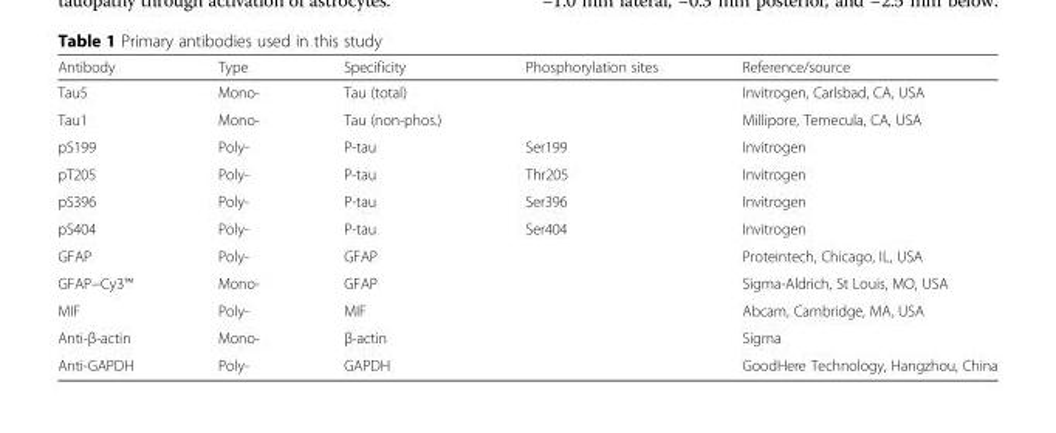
<table><thead><tr><td>Antibody</td><td>Type</td><td>Specificity</td><td>Phosphorylation sites</td><td>Reference/source</td></tr></thead><tbody><tr><td>Tau5</td><td>Mono-</td><td>Tau (total)</td><td></td><td>Invitrogen, Carlsbad, CA, USA</td></tr><tr><td>Tau1</td><td>Mono-</td><td>Tau (non-phos.)</td><td></td><td>Millipore, Temecula, CA, USA</td></tr><tr><td>pS199</td><td>Poly-</td><td>P-tau</td><td>Ser199</td><td>Invitrogen</td></tr><tr><td>pT205</td><td>Poly-</td><td>P-tau</td><td>Thr205</td><td>Invitrogen</td></tr><tr><td>pS396</td><td>Poly-</td><td>P-tau</td><td>Ser396</td><td>Invitrogen</td></tr><tr><td>pS404</td><td>Poly-</td><td>P-tau</td><td>Ser404</td><td>Invitrogen</td></tr><tr><td>GFAP</td><td>Poly-</td><td>GFAP</td><td></td><td>Proteintech, Chicago, IL, USA</td></tr><tr><td>GFAP−Cy3™</td><td>Mono-</td><td>GFAP</td><td></td><td>Sigma-Aldrich, St Louis, MO, USA</td></tr><tr><td>MIF</td><td>Poly-</td><td>MIF</td><td></td><td>Abcam, Cambridge, MA, USA</td></tr><tr><td>Anti-β-actin</td><td>Mono-</td><td>β-actin</td><td></td><td>Sigma</td></tr><tr><td>Anti-GAPDH</td><td>Poly-</td><td>GAPDH</td><td></td><td>GoodHere Technology, Hangzhou, China</td></tr></tbody></table>